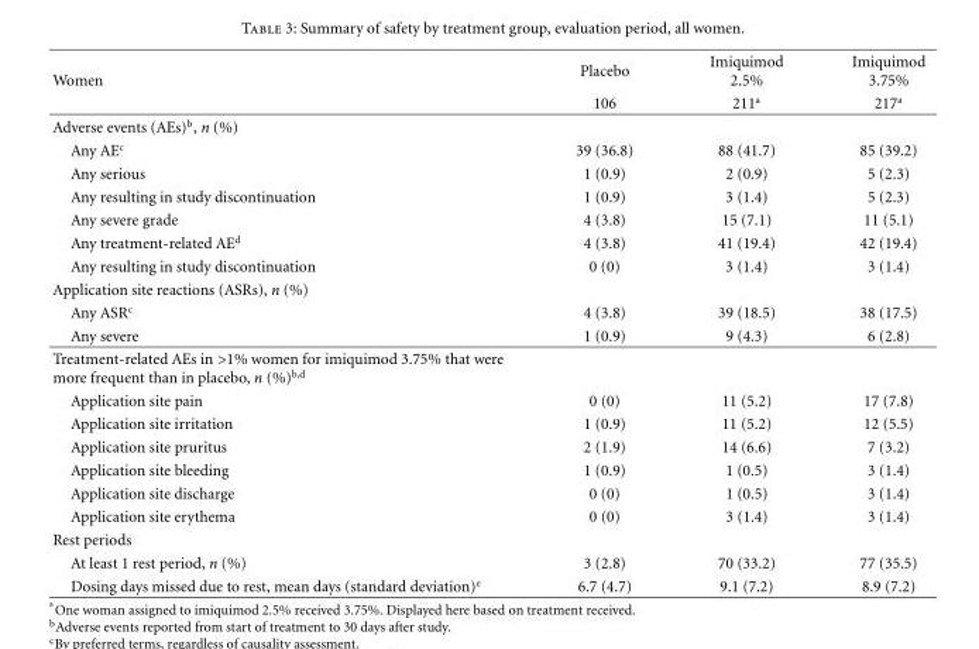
<table><thead><tr><td rowspan="2">Women</td><td rowspan="2">Placebo 106</td><td rowspan="2">Imiquimod 2.5% 211<sup>a</sup></td><td rowspan="2">Imiquimod 3.75% 217<sup>a</sup></td></tr><tr></tr></thead><tbody><tr><td colspan="4">Adverse events (AEs)<sup>b</sup>, n (%)</td></tr><tr><td>Any AE<sup>c</sup></td><td>39 (36.8)</td><td>88 (41.7)</td><td>85 (39.2)</td></tr><tr><td>Any serious</td><td>1 (0.9)</td><td>2 (0.9)</td><td>5 (2.3)</td></tr><tr><td>Any resulting in study discontinuation</td><td>1 (0.9)</td><td>3 (1.4)</td><td>5 (2.3)</td></tr><tr><td>Any severe grade</td><td>4 (3.8)</td><td>15 (7.1)</td><td>11 (5.1)</td></tr><tr><td>Any treatment-related AE<sup>d</sup></td><td>4 (3.8)</td><td>41 (19.4)</td><td>42 (19.4)</td></tr><tr><td>Any resulting in study discontinuation</td><td>0 (0)</td><td>3 (1.4)</td><td>3 (1.4)</td></tr><tr><td colspan="4">Application site reactions (ASRs), n (%)</td></tr><tr><td>Any ASR<sup>c</sup></td><td>4 (3.8)</td><td>39 (18.5)</td><td>38 (17.5)</td></tr><tr><td>Any severe</td><td>1 (0.9)</td><td>9 (4.3)</td><td>6 (2.8)</td></tr><tr><td colspan="4">Treatment-related AEs in &gt;1% women for imiquimod 3.75% that were more frequent than in placebo, n (%)<sup>b,d</sup></td></tr><tr><td>Application site pain</td><td>0 (0)</td><td>11 (5.2)</td><td>17 (7.8)</td></tr><tr><td>Application site irritation</td><td>1 (0.9)</td><td>11 (5.2)</td><td>12 (5.5)</td></tr><tr><td>Application site pruritus</td><td>2 (1.9)</td><td>14 (6.6)</td><td>7 (3.2)</td></tr><tr><td>Application site bleeding</td><td>1 (0.9)</td><td>1 (0.5)</td><td>3 (1.4)</td></tr><tr><td>Application site discharge</td><td>0 (0)</td><td>1 (0.5)</td><td>3 (1.4)</td></tr><tr><td>Application site erythema</td><td>0 (0)</td><td>3 (1.4)</td><td>3 (1.4)</td></tr><tr><td colspan="4">Rest periods</td></tr><tr><td>At least 1 rest period, n (%)</td><td>3 (2.8)</td><td>70 (33.2)</td><td>77 (35.5)</td></tr><tr><td>Dosing days missed due to rest, mean days (standard deviation)<sup>e</sup></td><td>6.7 (4.7)</td><td>9.1 (7.2)</td><td>8.9 (7.2)</td></tr></tbody></table>